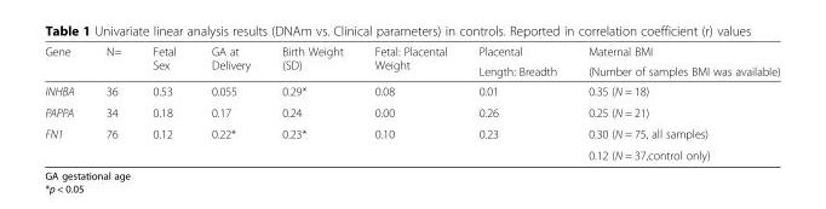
<table><thead><tr><td rowspan="2">Gene</td><td rowspan="2">N=</td><td rowspan="2">Fetal Sex</td><td rowspan="2">GA at Delivery</td><td rowspan="2">Birth Weight (SD)</td><td rowspan="2">Fetal: Placental Weight</td><td rowspan="2">Placental Length: Breadth</td><td rowspan="2">Maternal BMI (Number of samples BMI was available)</td></tr><tr></tr></thead><tbody><tr><td>INHBA</td><td>36</td><td>0.53</td><td>0.055</td><td>0.29*</td><td>0.08</td><td>0.01</td><td>0.35 (N = 18)</td></tr><tr><td>PAPPA</td><td>34</td><td>0.18</td><td>0.17</td><td>0.24</td><td>0.00</td><td>0.26</td><td>0.25 (N = 21)</td></tr><tr><td rowspan="2">FN1</td><td rowspan="2">76</td><td rowspan="2">0.12</td><td rowspan="2">0.22*</td><td rowspan="2">0.23*</td><td rowspan="2">0.10</td><td rowspan="2">0.23</td><td>0.30 (N = 75, all samples)</td></tr><tr><td>0.12 (N = 37,control only)</td></tr></tbody></table>